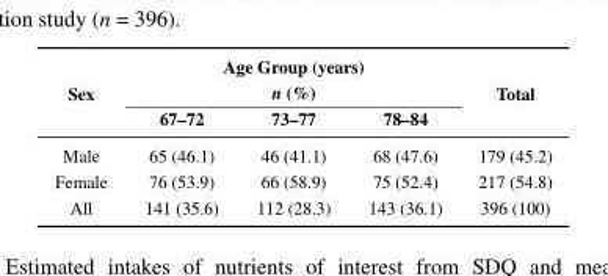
<table><thead><tr><td rowspan="3">Sex</td><td rowspan="2" colspan="3">Age Group (years) n (%)</td><td rowspan="3">Total</td></tr><tr></tr><tr><td>67–72</td><td>73–77</td><td>78–84</td></tr></thead><tbody><tr><td>Male</td><td>65 (46.1)</td><td>46 (41.1)</td><td>68 (47.6)</td><td>179 (45.2)</td></tr><tr><td>Female</td><td>76 (53.9)</td><td>66 (58.9)</td><td>75 (52.4)</td><td>217 (54.8)</td></tr><tr><td>All</td><td>141 (35.6)</td><td>112 (28.3)</td><td>143 (36.1)</td><td>396 (100)</td></tr></tbody></table>